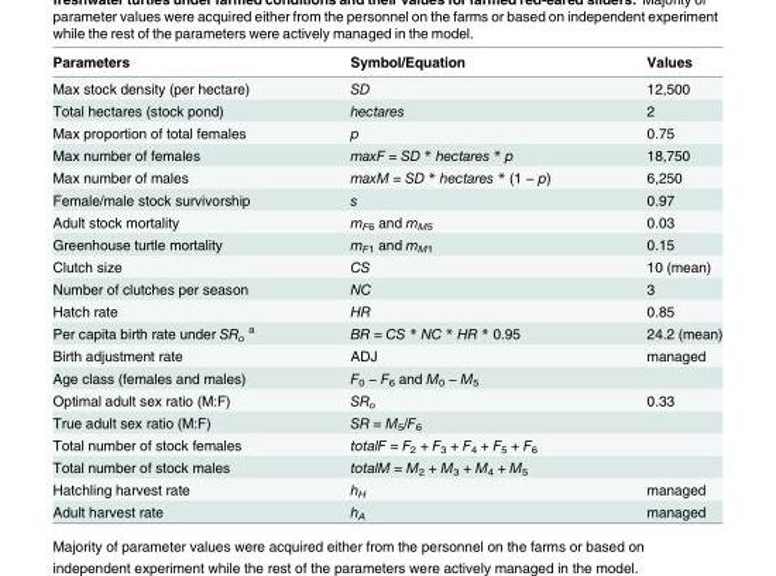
<table><thead><tr><td>Parameters</td><td>Symbol/Equation</td><td>Values</td></tr></thead><tbody><tr><td>Max stock density (per hectare)</td><td>SD</td><td>12,500</td></tr><tr><td>Total hectares (stock pond)</td><td>hectares</td><td>2</td></tr><tr><td>Max proportion of total females</td><td>p</td><td>0.75</td></tr><tr><td>Max number of females</td><td>maxF = SD * hectares * p</td><td>18,750</td></tr><tr><td>Max number of males</td><td>maxM = SD * hectares * (1 − p)</td><td>6,250</td></tr><tr><td>Female/male stock survivorship</td><td>s</td><td>0.97</td></tr><tr><td>Adult stock mortality</td><td>m<sub>F6</sub> and m<sub>M5</sub></td><td>0.03</td></tr><tr><td>Greenhouse turtle mortality</td><td>m<sub>F1</sub> and m<sub>M1</sub></td><td>0.15</td></tr><tr><td>Clutch size</td><td>CS</td><td>10 (mean)</td></tr><tr><td>Number of clutches per season</td><td>NC</td><td>3</td></tr><tr><td>Hatch rate</td><td>HR</td><td>0.85</td></tr><tr><td>Per capita birth rate under SR<sub>o</sub> <sup>a</sup></td><td>BR = CS * NC * HR * 0.95</td><td>24.2 (mean)</td></tr><tr><td>Birth adjustment rate</td><td>ADJ</td><td>managed</td></tr><tr><td>Age class (females and males)</td><td>F<sub>0</sub> − F<sub>6</sub> and M<sub>0</sub> − M<sub>5</sub></td><td></td></tr><tr><td>Optimal adult sex ratio (M:F)</td><td>SR<sub>o</sub></td><td>0.33</td></tr><tr><td>True adult sex ratio (M:F)</td><td>SR = M<sub>5</sub>/F<sub>6</sub></td><td></td></tr><tr><td>Total number of stock females</td><td>totalF = F<sub>2</sub> + F<sub>3</sub> + F<sub>4</sub> + F<sub>5</sub> + F<sub>6</sub></td><td></td></tr><tr><td>Total number of stock males</td><td>totalM = M<sub>2</sub> + M<sub>3</sub> + M<sub>4</sub> + M<sub>5</sub></td><td></td></tr><tr><td>Hatchling harvest rate</td><td>h<sub>H</sub></td><td>managed</td></tr><tr><td>Adult harvest rate</td><td>h<sub>A</sub></td><td>managed</td></tr></tbody></table>